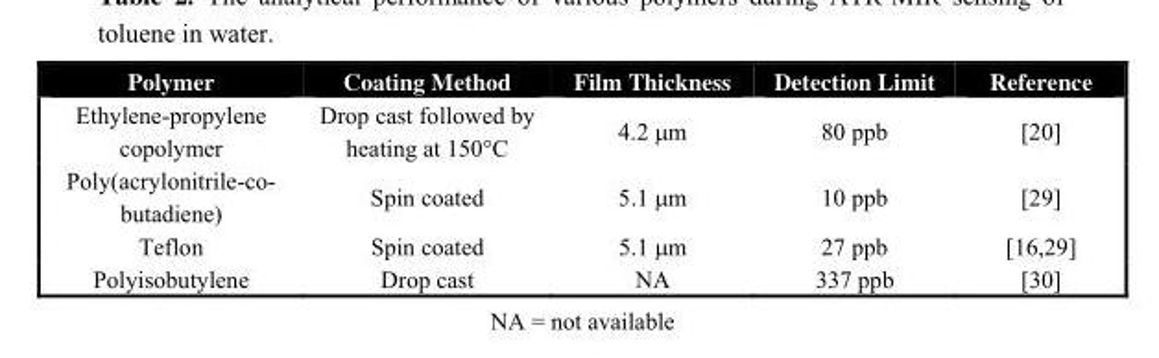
<table><thead><tr><td>Polymer</td><td>Coating Method</td><td>Film Thickness</td><td>Detection Limit</td><td>Reference</td></tr></thead><tbody><tr><td>Ethylene-propylene copolymer</td><td>Drop cast followed by heating at 150°C</td><td>4.2 μm</td><td>80 ppb</td><td>[20]</td></tr><tr><td>Poly(acrylonitrile-co- butadiene)</td><td>Spin coated</td><td>5.1 μm</td><td>10 ppb</td><td>[29]</td></tr><tr><td>Teflon</td><td>Spin coated</td><td>5.1 μm</td><td>27 ppb</td><td>[16,29]</td></tr><tr><td>Polyisobutylene</td><td>Drop cast</td><td>NA</td><td>337 ppb</td><td>[30]</td></tr></tbody></table>